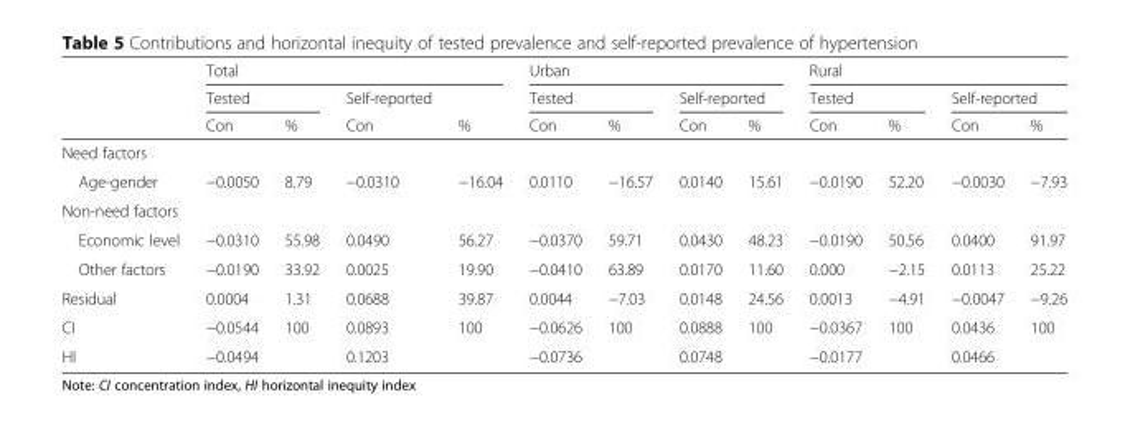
<table><thead><tr><td rowspan="3"></td><td colspan="4">Total</td><td colspan="4">Urban</td><td colspan="4">Rural</td></tr><tr><td colspan="2">Tested</td><td rowspan="2">Self-reported Con</td><td rowspan="2">%</td><td colspan="2">Tested</td><td colspan="2">Self-reported</td><td colspan="2">Tested</td><td colspan="2">Self-reported</td></tr><tr><td>Con</td><td>%</td><td>Con</td><td>%</td><td>Con</td><td>%</td><td>Con</td><td>%</td><td>Con</td><td>%</td></tr></thead><tbody><tr><td colspan="13">Need factors</td></tr><tr><td>Age-gender</td><td>−0.0050</td><td>8.79</td><td>−0.0310</td><td>−16.04</td><td>0.0110</td><td>−16.57</td><td>0.0140</td><td>15.61</td><td>−0.0190</td><td>52.20</td><td>−0.0030</td><td>−7.93</td></tr><tr><td colspan="13">Non-need factors</td></tr><tr><td>Economic level</td><td>−0.0310</td><td>55.98</td><td>0.0490</td><td>56.27</td><td>−0.0370</td><td>59.71</td><td>0.0430</td><td>48.23</td><td>−0.0190</td><td>50.56</td><td>0.0400</td><td>91.97</td></tr><tr><td>Other factors</td><td>−0.0190</td><td>33.92</td><td>0.0025</td><td>19.90</td><td>−0.0410</td><td>63.89</td><td>0.0170</td><td>11.60</td><td>0.000</td><td>−2.15</td><td>0.0113</td><td>25.22</td></tr><tr><td>Residual</td><td>0.0004</td><td>1.31</td><td>0.0688</td><td>39.87</td><td>0.0044</td><td>−7.03</td><td>0.0148</td><td>24.56</td><td>0.0013</td><td>−4.91</td><td>−0.0047</td><td>−9.26</td></tr><tr><td>CI</td><td>−0.0544</td><td>100</td><td>0.0893</td><td>100</td><td>−0.0626</td><td>100</td><td>0.0888</td><td>100</td><td>−0.0367</td><td>100</td><td>0.0436</td><td>100</td></tr><tr><td>HI</td><td colspan="2">−0.0494</td><td colspan="2">0.1203</td><td colspan="2">−0.0736</td><td colspan="2">0.0748</td><td colspan="2">−0.0177</td><td colspan="2">0.0466</td></tr></tbody></table>